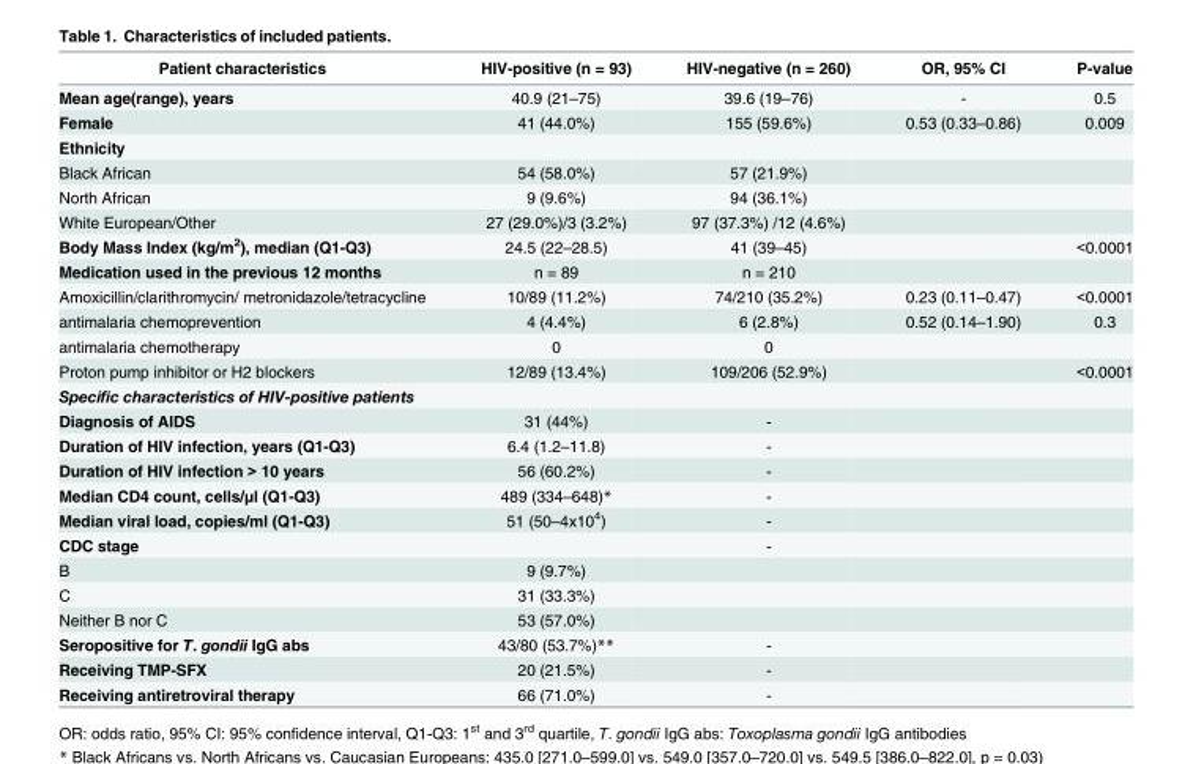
<table><thead><tr><td>Patient characteristics</td><td>HIV-positive (n = 93)</td><td>HIV-negative (n = 260)</td><td>OR, 95% CI</td><td>P-value</td></tr></thead><tbody><tr><td>Mean age(range), years</td><td>40.9 (21–75)</td><td>39.6 (19–76)</td><td>-</td><td>0.5</td></tr><tr><td>Female</td><td>41 (44.0%)</td><td>155 (59.6%)</td><td>0.53 (0.33–0.86)</td><td>0.009</td></tr><tr><td colspan="5">Ethnicity</td></tr><tr><td>Black African</td><td>54 (58.0%)</td><td>57 (21.9%)</td><td></td><td></td></tr><tr><td>North African</td><td>9 (9.6%)</td><td>94 (36.1%)</td><td></td><td></td></tr><tr><td>White European/Other</td><td>27 (29.0%)/3 (3.2%)</td><td>97 (37.3%) /12 (4.6%)</td><td></td><td></td></tr><tr><td>Body Mass Index (kg/m<sup>2</sup>), median (Q1-Q3)</td><td>24.5 (22–28.5)</td><td>41 (39–45)</td><td></td><td>&lt;0.0001</td></tr><tr><td>Medication used in the previous 12 months</td><td>n = 89</td><td>n = 210</td><td></td><td></td></tr><tr><td>Amoxicillin/clarithromycin/ metronidazole/tetracycline</td><td>10/89 (11.2%)</td><td>74/210 (35.2%)</td><td>0.23 (0.11–0.47)</td><td>&lt;0.0001</td></tr><tr><td>antimalaria chemoprevention</td><td>4 (4.4%)</td><td>6 (2.8%)</td><td>0.52 (0.14–1.90)</td><td>0.3</td></tr><tr><td>antimalaria chemotherapy</td><td>0</td><td>0</td><td></td><td></td></tr><tr><td>Proton pump inhibitor or H2 blockers</td><td>12/89 (13.4%)</td><td>109/206 (52.9%)</td><td></td><td>&lt;0.0001</td></tr><tr><td colspan="5">Specific characteristics of HIV-positive patients</td></tr><tr><td>Diagnosis of AIDS</td><td>31 (44%)</td><td>-</td><td></td><td></td></tr><tr><td>Duration of HIV infection, years (Q1-Q3)</td><td>6.4 (1.2–11.8)</td><td>-</td><td></td><td></td></tr><tr><td>Duration of HIV infection &gt; 10 years</td><td>56 (60.2%)</td><td>-</td><td></td><td></td></tr><tr><td>Median CD4 count, cells/μl (Q1-Q3)</td><td>489 (334–648)*</td><td>-</td><td></td><td></td></tr><tr><td>Median viral load, copies/ml (Q1-Q3)</td><td>51 (50–4x10<sup>4</sup>)</td><td>-</td><td></td><td></td></tr><tr><td>CDC stage</td><td></td><td>-</td><td></td><td></td></tr><tr><td>B</td><td>9 (9.7%)</td><td></td><td></td><td></td></tr><tr><td>C</td><td>31 (33.3%)</td><td></td><td></td><td></td></tr><tr><td>Neither B nor C</td><td>53 (57.0%)</td><td></td><td></td><td></td></tr><tr><td>Seropositive for T. gondii IgG abs</td><td>43/80 (53.7%)**</td><td>-</td><td></td><td></td></tr><tr><td>Receiving TMP-SFX</td><td>20 (21.5%)</td><td>-</td><td></td><td></td></tr><tr><td>Receiving antiretroviral therapy</td><td>66 (71.0%)</td><td>-</td><td></td><td></td></tr></tbody></table>